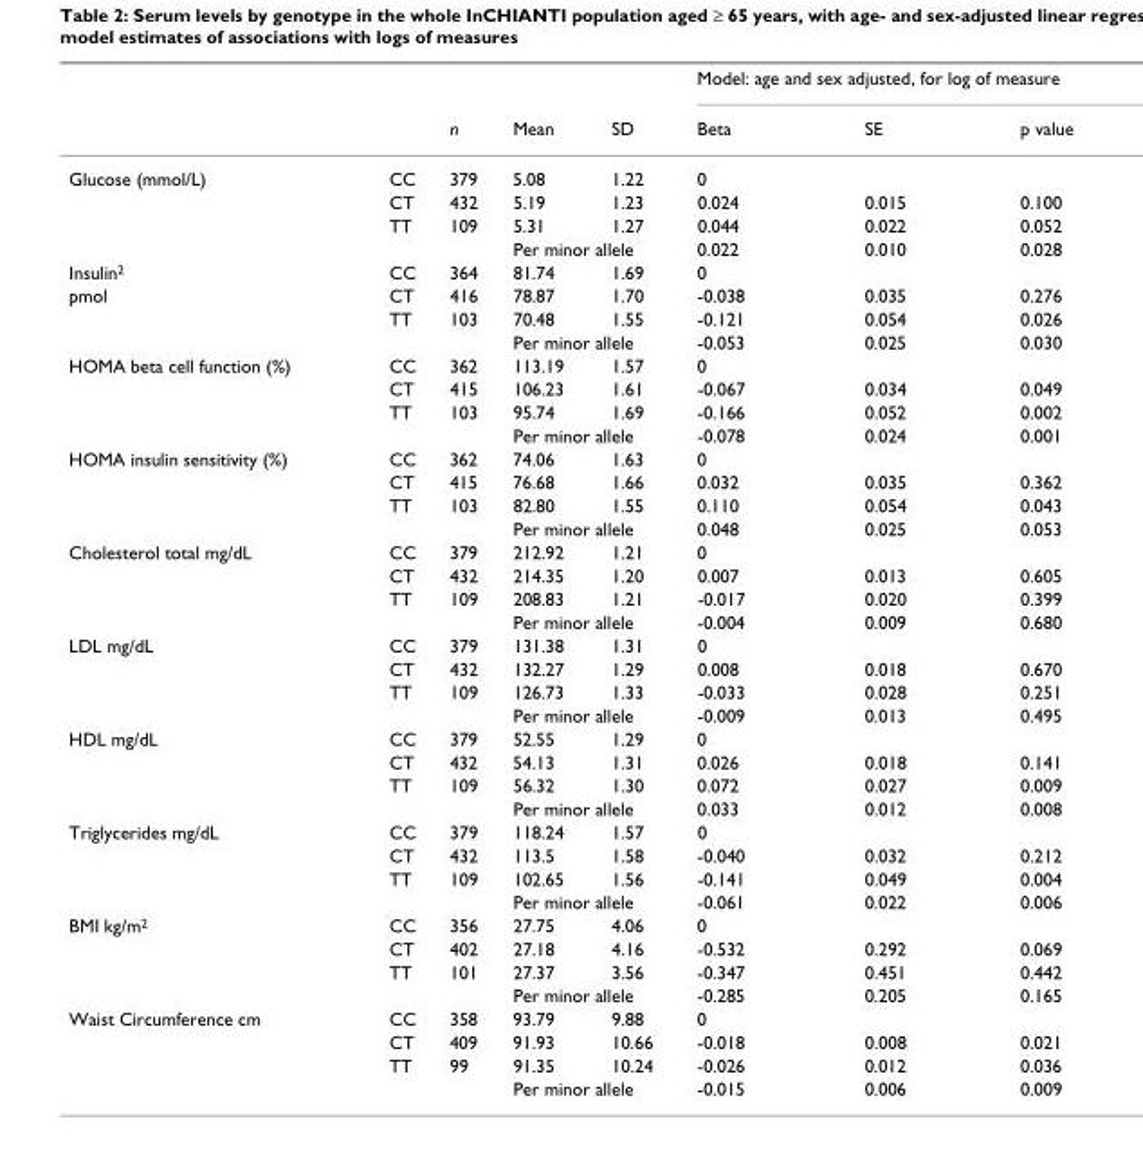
<table><thead><tr><td rowspan="2"></td><td rowspan="2"></td><td rowspan="2">n</td><td rowspan="2">Mean</td><td rowspan="2">SD</td><td colspan="3">Model: age and sex adjusted, for log of measure</td></tr><tr><td>Beta</td><td>SE</td><td>p value</td></tr></thead><tbody><tr><td rowspan="4">Glucose (mmol/L)</td><td>CC</td><td>379</td><td>5.08</td><td>1.22</td><td>0</td><td></td><td></td></tr><tr><td>CT</td><td>432</td><td>5.19</td><td>1.23</td><td>0.024</td><td>0.015</td><td>0.100</td></tr><tr><td>TT</td><td>109</td><td>5.31</td><td>1.27</td><td>0.044</td><td>0.022</td><td>0.052</td></tr><tr><td></td><td></td><td colspan="2">Per minor allele</td><td>0.022</td><td>0.010</td><td>0.028</td></tr><tr><td>Insulin2</td><td>CC</td><td>364</td><td>81.74</td><td>1.69</td><td>0</td><td></td><td></td></tr><tr><td rowspan="3">pmol</td><td>CT</td><td>416</td><td>78.87</td><td>1.70</td><td>-0.038</td><td>0.035</td><td>0.276</td></tr><tr><td>TT</td><td>103</td><td>70.48</td><td>1.55</td><td>-0.121</td><td>0.054</td><td>0.026</td></tr><tr><td></td><td></td><td colspan="2">Per minor allele</td><td>-0.053</td><td>0.025</td><td>0.030</td></tr><tr><td rowspan="4">HOMA beta cell function (%)</td><td>CC</td><td>362</td><td>113.19</td><td>1.57</td><td>0</td><td></td><td></td></tr><tr><td>CT</td><td>415</td><td>106.23</td><td>1.61</td><td>-0.067</td><td>0.034</td><td>0.049</td></tr><tr><td>TT</td><td>103</td><td>95.74</td><td>1.69</td><td>-0.166</td><td>0.052</td><td>0.002</td></tr><tr><td></td><td></td><td colspan="2">Per minor allele</td><td>-0.078</td><td>0.024</td><td>0.001</td></tr><tr><td rowspan="4">HOMA insulin sensitivity (%)</td><td>CC</td><td>362</td><td>74.06</td><td>1.63</td><td>0</td><td></td><td></td></tr><tr><td>CT</td><td>415</td><td>76.68</td><td>1.66</td><td>0.032</td><td>0.035</td><td>0.362</td></tr><tr><td>TT</td><td>103</td><td>82.80</td><td>1.55</td><td>0.110</td><td>0.054</td><td>0.043</td></tr><tr><td></td><td></td><td colspan="2">Per minor allele</td><td>0.048</td><td>0.025</td><td>0.053</td></tr><tr><td rowspan="4">Cholesterol total mg/dL</td><td>CC</td><td>379</td><td>212.92</td><td>1.21</td><td>0</td><td></td><td></td></tr><tr><td>CT</td><td>432</td><td>214.35</td><td>1.20</td><td>0.007</td><td>0.013</td><td>0.605</td></tr><tr><td>TT</td><td>109</td><td>208.83</td><td>1.21</td><td>-0.017</td><td>0.020</td><td>0.399</td></tr><tr><td></td><td></td><td colspan="2">Per minor allele</td><td>-0.004</td><td>0.009</td><td>0.680</td></tr><tr><td rowspan="4">LDL mg/dL</td><td>CC</td><td>379</td><td>131.38</td><td>1.31</td><td>0</td><td></td><td></td></tr><tr><td>CT</td><td>432</td><td>132.27</td><td>1.29</td><td>0.008</td><td>0.018</td><td>0.670</td></tr><tr><td>TT</td><td>109</td><td>126.73</td><td>1.33</td><td>-0.033</td><td>0.028</td><td>0.251</td></tr><tr><td></td><td></td><td colspan="2">Per minor allele</td><td>-0.009</td><td>0.013</td><td>0.495</td></tr><tr><td rowspan="4">HDL mg/dL</td><td>CC</td><td>379</td><td>52.55</td><td>1.29</td><td>0</td><td></td><td></td></tr><tr><td>CT</td><td>432</td><td>54.13</td><td>1.31</td><td>0.026</td><td>0.018</td><td>0.141</td></tr><tr><td>TT</td><td>109</td><td>56.32</td><td>1.30</td><td>0.072</td><td>0.027</td><td>0.009</td></tr><tr><td></td><td></td><td colspan="2">Per minor allele</td><td>0.033</td><td>0.012</td><td>0.008</td></tr><tr><td rowspan="4">Triglycerides mg/dL</td><td>CC</td><td>379</td><td>118.24</td><td>1.57</td><td>0</td><td></td><td></td></tr><tr><td>CT</td><td>432</td><td>113.5</td><td>1.58</td><td>-0.040</td><td>0.032</td><td>0.212</td></tr><tr><td>TT</td><td>109</td><td>102.65</td><td>1.56</td><td>-0.141</td><td>0.049</td><td>0.004</td></tr><tr><td></td><td></td><td colspan="2">Per minor allele</td><td>-0.061</td><td>0.022</td><td>0.006</td></tr><tr><td rowspan="4">BMI kg/m2</td><td>CC</td><td>356</td><td>27.75</td><td>4.06</td><td>0</td><td></td><td></td></tr><tr><td>CT</td><td>402</td><td>27.18</td><td>4.16</td><td>-0.532</td><td>0.292</td><td>0.069</td></tr><tr><td>TT</td><td>101</td><td>27.37</td><td>3.56</td><td>-0.347</td><td>0.451</td><td>0.442</td></tr><tr><td></td><td></td><td colspan="2">Per minor allele</td><td>-0.285</td><td>0.205</td><td>0.165</td></tr><tr><td rowspan="4">Waist Circumference cm</td><td>CC</td><td>358</td><td>93.79</td><td>9.88</td><td>0</td><td></td><td></td></tr><tr><td>CT</td><td>409</td><td>91.93</td><td>10.66</td><td>-0.018</td><td>0.008</td><td>0.021</td></tr><tr><td>TT</td><td>99</td><td>91.35</td><td>10.24</td><td>-0.026</td><td>0.012</td><td>0.036</td></tr><tr><td></td><td></td><td colspan="2">Per minor allele</td><td>-0.015</td><td>0.006</td><td>0.009</td></tr></tbody></table>